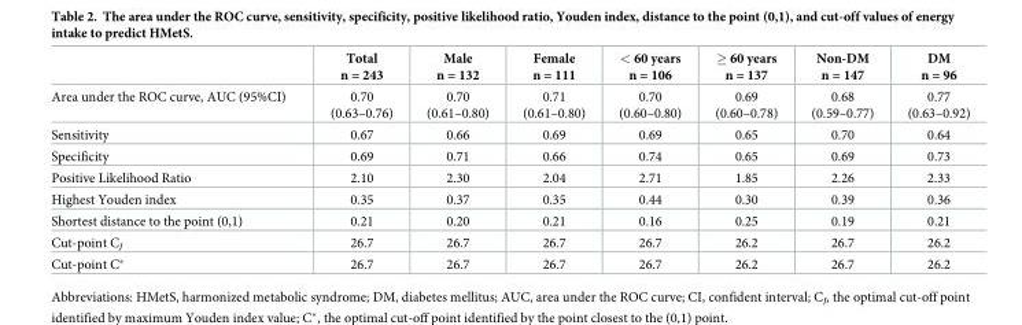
<table><thead><tr><td></td><td>Total n = 243</td><td>Male n = 132</td><td>Female n = 111</td><td>&lt; 60 years n = 106</td><td>≥ 60 years n = 137</td><td>Non-DM n = 147</td><td>DM n = 96</td></tr></thead><tbody><tr><td>Area under the ROC curve, AUC (95%CI)</td><td>0.70 (0.63–0.76)</td><td>0.70 (0.61–0.80)</td><td>0.71 (0.61–0.80)</td><td>0.70 (0.60–0.80)</td><td>0.69 (0.60–0.78)</td><td>0.68 (0.59–0.77)</td><td>0.77 (0.63–0.92)</td></tr><tr><td>Sensitivity</td><td>0.67</td><td>0.66</td><td>0.69</td><td>0.69</td><td>0.65</td><td>0.70</td><td>0.64</td></tr><tr><td>Specificity</td><td>0.69</td><td>0.71</td><td>0.66</td><td>0.74</td><td>0.65</td><td>0.69</td><td>0.73</td></tr><tr><td>Positive Likelihood Ratio</td><td>2.10</td><td>2.30</td><td>2.04</td><td>2.71</td><td>1.85</td><td>2.26</td><td>2.33</td></tr><tr><td>Highest Youden index</td><td>0.35</td><td>0.37</td><td>0.35</td><td>0.44</td><td>0.30</td><td>0.39</td><td>0.36</td></tr><tr><td>Shortest distance to the point (0,1)</td><td>0.21</td><td>0.20</td><td>0.21</td><td>0.16</td><td>0.25</td><td>0.19</td><td>0.21</td></tr><tr><td>Cut-point C<sub>J</sub></td><td>26.7</td><td>26.7</td><td>26.7</td><td>26.7</td><td>26.2</td><td>26.7</td><td>26.2</td></tr><tr><td>Cut-point C*</td><td>26.7</td><td>26.7</td><td>26.7</td><td>26.7</td><td>26.2</td><td>26.7</td><td>26.2</td></tr></tbody></table>